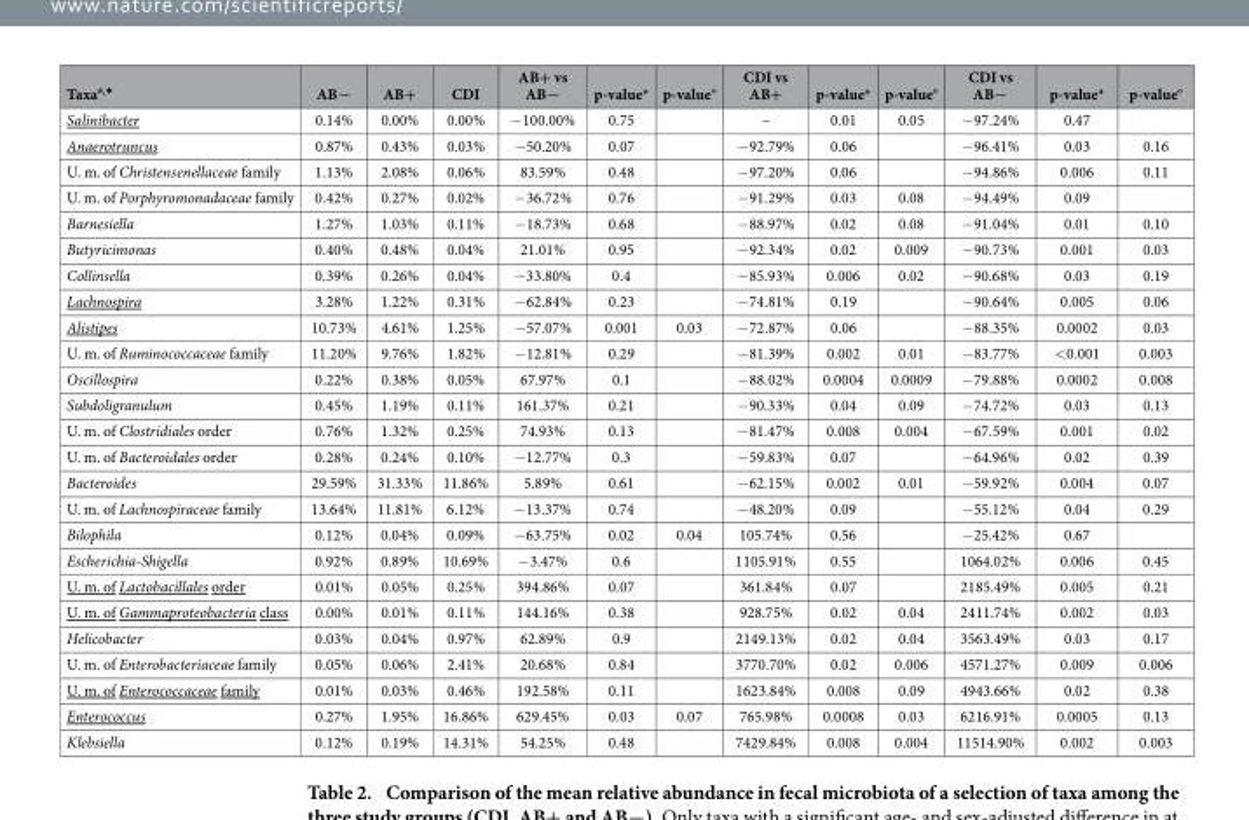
<table><thead><tr><td>Taxa#,✦</td><td>AB−</td><td>AB+</td><td>CDI</td><td>AB+ vs AB−</td><td>p-value*</td><td>p-value°</td><td>CDI vs AB+</td><td>p-value*</td><td>p-value°</td><td>CDI vs AB−</td><td>p-value*</td><td>p-value°</td></tr></thead><tbody><tr><td>Salinibacter</td><td>0.14%</td><td>0.00%</td><td>0.00%</td><td>− 100.00%</td><td>0.75</td><td></td><td>–</td><td>0.01</td><td>0.05</td><td>− 97.24%</td><td>0.47</td><td></td></tr><tr><td>Anaerotruncus</td><td>0.87%</td><td>0.43%</td><td>0.03%</td><td>− 50.20%</td><td>0.07</td><td></td><td>− 92.79%</td><td>0.06</td><td></td><td>− 96.41%</td><td>0.03</td><td>0.16</td></tr><tr><td>U. m. of Christensenellaceae family</td><td>1.13%</td><td>2.08%</td><td>0.06%</td><td>83.59%</td><td>0.48</td><td></td><td>− 97.20%</td><td>0.06</td><td></td><td>− 94.86%</td><td>0.006</td><td>0.11</td></tr><tr><td>U. m. of Porphyromonadaceae family</td><td>0.42%</td><td>0.27%</td><td>0.02%</td><td>− 36.72%</td><td>0.76</td><td></td><td>− 91.29%</td><td>0.03</td><td>0.08</td><td>− 94.49%</td><td>0.09</td><td></td></tr><tr><td>Barnesiella</td><td>1.27%</td><td>1.03%</td><td>0.11%</td><td>− 18.73%</td><td>0.68</td><td></td><td>− 88.97%</td><td>0.02</td><td>0.08</td><td>− 91.04%</td><td>0.01</td><td>0.10</td></tr><tr><td>Butyricimonas</td><td>0.40%</td><td>0.48%</td><td>0.04%</td><td>21.01%</td><td>0.95</td><td></td><td>− 92.34%</td><td>0.02</td><td>0.009</td><td>− 90.73%</td><td>0.001</td><td>0.03</td></tr><tr><td>Collinsella</td><td>0.39%</td><td>0.26%</td><td>0.04%</td><td>− 33.80%</td><td>0.4</td><td></td><td>− 85.93%</td><td>0.006</td><td>0.02</td><td>− 90.68%</td><td>0.03</td><td>0.19</td></tr><tr><td>Lachnospira</td><td>3.28%</td><td>1.22%</td><td>0.31%</td><td>− 62.84%</td><td>0.23</td><td></td><td>− 74.81%</td><td>0.19</td><td></td><td>− 90.64%</td><td>0.005</td><td>0.06</td></tr><tr><td>Alistipes</td><td>10.73%</td><td>4.61%</td><td>1.25%</td><td>− 57.07%</td><td>0.001</td><td>0.03</td><td>− 72.87%</td><td>0.06</td><td></td><td>− 88.35%</td><td>0.0002</td><td>0.03</td></tr><tr><td>U. m. of Ruminococcaceae family</td><td>11.20%</td><td>9.76%</td><td>1.82%</td><td>− 12.81%</td><td>0.29</td><td></td><td>− 81.39%</td><td>0.002</td><td>0.01</td><td>− 83.77%</td><td>&lt; 0.001</td><td>0.003</td></tr><tr><td>Oscillospira</td><td>0.22%</td><td>0.38%</td><td>0.05%</td><td>67.97%</td><td>0.1</td><td></td><td>− 88.02%</td><td>0.0004</td><td>0.0009</td><td>− 79.88%</td><td>0.0002</td><td>0.008</td></tr><tr><td>Subdoligranulum</td><td>0.45%</td><td>1.19%</td><td>0.11%</td><td>161.37%</td><td>0.21</td><td></td><td>− 90.33%</td><td>0.04</td><td>0.09</td><td>− 74.72%</td><td>0.03</td><td>0.13</td></tr><tr><td>U. m. of Clostridiales order</td><td>0.76%</td><td>1.32%</td><td>0.25%</td><td>74.93%</td><td>0.13</td><td></td><td>− 81.47%</td><td>0.008</td><td>0.004</td><td>− 67.59%</td><td>0.001</td><td>0.02</td></tr><tr><td>U. m. of Bacteroidales order</td><td>0.28%</td><td>0.24%</td><td>0.10%</td><td>− 12.77%</td><td>0.3</td><td></td><td>− 59.83%</td><td>0.07</td><td></td><td>− 64.96%</td><td>0.02</td><td>0.39</td></tr><tr><td>Bacteroides</td><td>29.59%</td><td>31.33%</td><td>11.86%</td><td>5.89%</td><td>0.61</td><td></td><td>− 62.15%</td><td>0.002</td><td>0.01</td><td>− 59.92%</td><td>0.004</td><td>0.07</td></tr><tr><td>U. m. of Lachnospiraceae family</td><td>13.64%</td><td>11.81%</td><td>6.12%</td><td>− 13.37%</td><td>0.74</td><td></td><td>− 48.20%</td><td>0.09</td><td></td><td>− 55.12%</td><td>0.04</td><td>0.29</td></tr><tr><td>Bilophila</td><td>0.12%</td><td>0.04%</td><td>0.09%</td><td>− 63.75%</td><td>0.02</td><td>0.04</td><td>105.74%</td><td>0.56</td><td></td><td>− 25.42%</td><td>0.67</td><td></td></tr><tr><td>Escherichia-Shigella</td><td>0.92%</td><td>0.89%</td><td>10.69%</td><td>− 3.47%</td><td>0.6</td><td></td><td>1105.91%</td><td>0.55</td><td></td><td>1064.02%</td><td>0.006</td><td>0.45</td></tr><tr><td>U. m. of Lactobacillales order</td><td>0.01%</td><td>0.05%</td><td>0.25%</td><td>394.86%</td><td>0.07</td><td></td><td>361.84%</td><td>0.07</td><td></td><td>2185.49%</td><td>0.005</td><td>0.21</td></tr><tr><td>U. m. of Gammaproteobacteria class</td><td>0.00%</td><td>0.01%</td><td>0.11%</td><td>144.16%</td><td>0.38</td><td></td><td>928.75%</td><td>0.02</td><td>0.04</td><td>2411.74%</td><td>0.002</td><td>0.03</td></tr><tr><td>Helicobacter</td><td>0.03%</td><td>0.04%</td><td>0.97%</td><td>62.89%</td><td>0.9</td><td></td><td>2149.13%</td><td>0.02</td><td>0.04</td><td>3563.49%</td><td>0.03</td><td>0.17</td></tr><tr><td>U. m. of Enterobacteriaceae family</td><td>0.05%</td><td>0.06%</td><td>2.41%</td><td>20.68%</td><td>0.84</td><td></td><td>3770.70%</td><td>0.02</td><td>0.006</td><td>4571.27%</td><td>0.009</td><td>0.006</td></tr><tr><td>U. m. of Enterococcaceae family</td><td>0.01%</td><td>0.03%</td><td>0.46%</td><td>192.58%</td><td>0.11</td><td></td><td>1623.84%</td><td>0.008</td><td>0.09</td><td>4943.66%</td><td>0.02</td><td>0.38</td></tr><tr><td>Enterococcus</td><td>0.27%</td><td>1.95%</td><td>16.86%</td><td>629.45%</td><td>0.03</td><td>0.07</td><td>765.98%</td><td>0.0008</td><td>0.03</td><td>6216.91%</td><td>0.0005</td><td>0.13</td></tr><tr><td>Klebsiella</td><td>0.12%</td><td>0.19%</td><td>14.31%</td><td>54.25%</td><td>0.48</td><td></td><td>7429.84%</td><td>0.008</td><td>0.004</td><td>11514.90%</td><td>0.002</td><td>0.003</td></tr></tbody></table>